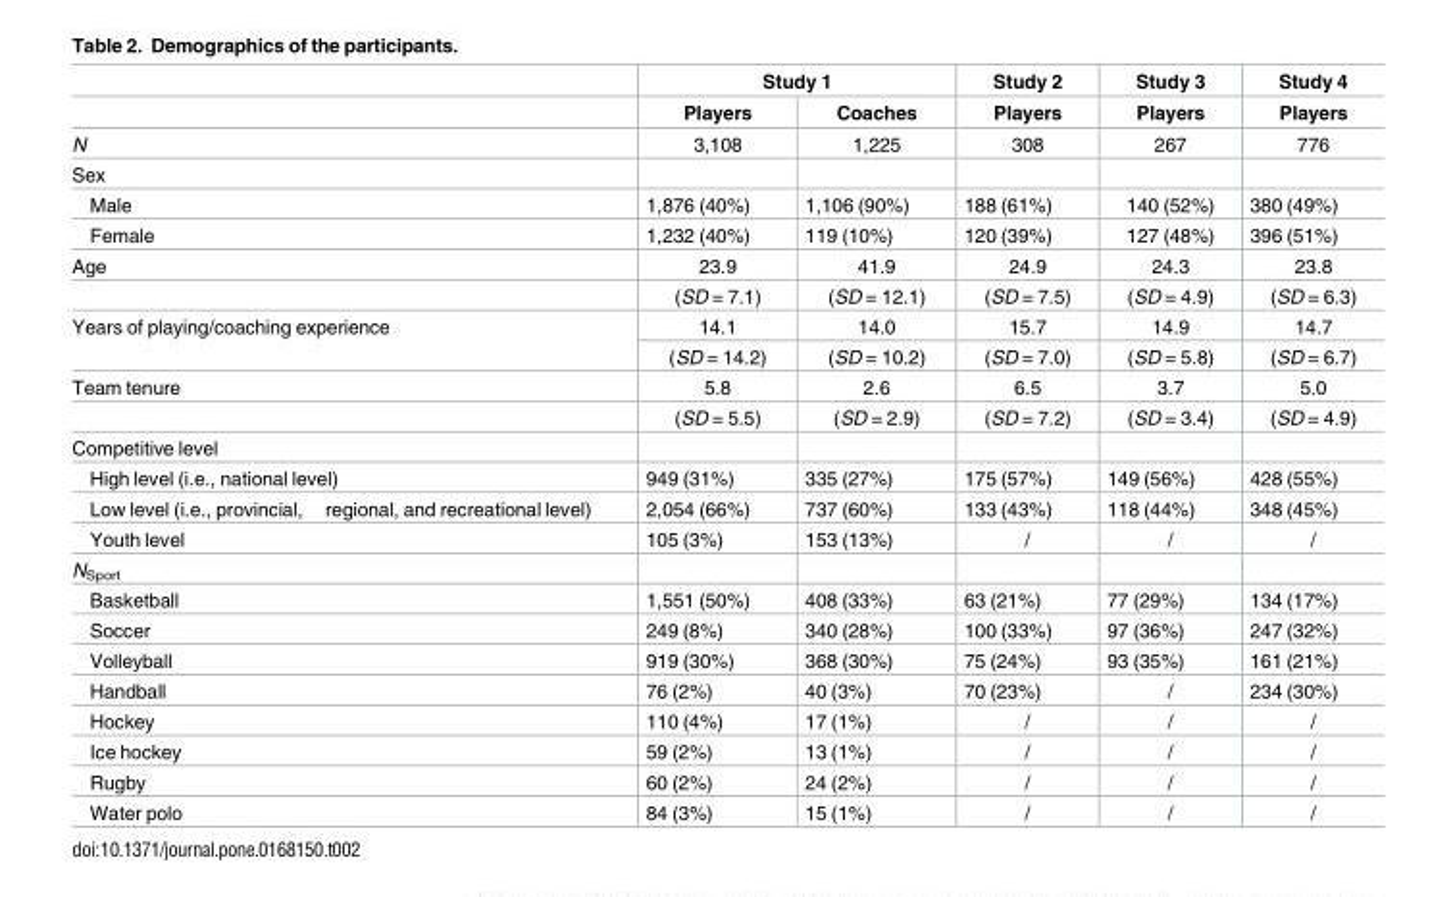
<table><thead><tr><td rowspan="2"></td><td colspan="2">Study 1</td><td rowspan="2">Study 2 Players</td><td rowspan="2">Study 3 Players</td><td rowspan="2">Study 4 Players</td></tr><tr><td>Players</td><td>Coaches</td></tr></thead><tbody><tr><td>N</td><td>3,108</td><td>1,225</td><td>308</td><td>267</td><td>776</td></tr><tr><td colspan="6">Sex</td></tr><tr><td>Male</td><td>1,876 (40%)</td><td>1,106 (90%)</td><td>188 (61%)</td><td>140 (52%)</td><td>380 (49%)</td></tr><tr><td>Female</td><td>1,232 (40%)</td><td>119 (10%)</td><td>120 (39%)</td><td>127 (48%)</td><td>396 (51%)</td></tr><tr><td rowspan="2">Age</td><td>23.9</td><td>41.9</td><td>24.9</td><td>24.3</td><td>23.8</td></tr><tr><td>(SD = 7.1)</td><td>(SD = 12.1)</td><td>(SD = 7.5)</td><td>(SD = 4.9)</td><td>(SD = 6.3)</td></tr><tr><td rowspan="2">Years of playing/coaching experience</td><td>14.1</td><td>14.0</td><td>15.7</td><td>14.9</td><td>14.7</td></tr><tr><td>(SD = 14.2)</td><td>(SD = 10.2)</td><td>(SD = 7.0)</td><td>(SD = 5.8)</td><td>(SD = 6.7)</td></tr><tr><td rowspan="2">Team tenure</td><td>5.8</td><td>2.6</td><td>6.5</td><td>3.7</td><td>5.0</td></tr><tr><td>(SD = 5.5)</td><td>(SD = 2.9)</td><td>(SD = 7.2)</td><td>(SD = 3.4)</td><td>(SD = 4.9)</td></tr><tr><td colspan="6">Competitive level</td></tr><tr><td>High level (i.e., national level)</td><td>949 (31%)</td><td>335 (27%)</td><td>175 (57%)</td><td>149 (56%)</td><td>428 (55%)</td></tr><tr><td>Low level (i.e., provincial, regional, and recreational level)</td><td>2,054 (66%)</td><td>737 (60%)</td><td>133 (43%)</td><td>118 (44%)</td><td>348 (45%)</td></tr><tr><td>Youth level</td><td>105 (3%)</td><td>153 (13%)</td><td>/</td><td>/</td><td>/</td></tr><tr><td colspan="6">N<sub>Sport</sub></td></tr><tr><td>Basketball</td><td>1,551 (50%)</td><td>408 (33%)</td><td>63 (21%)</td><td>77 (29%)</td><td>134 (17%)</td></tr><tr><td>Soccer</td><td>249 (8%)</td><td>340 (28%)</td><td>100 (33%)</td><td>97 (36%)</td><td>247 (32%)</td></tr><tr><td>Volleyball</td><td>919 (30%)</td><td>368 (30%)</td><td>75 (24%)</td><td>93 (35%)</td><td>161 (21%)</td></tr><tr><td>Handball</td><td>76 (2%)</td><td>40 (3%)</td><td>70 (23%)</td><td>/</td><td>234 (30%)</td></tr><tr><td>Hockey</td><td>110 (4%)</td><td>17 (1%)</td><td>/</td><td>/</td><td>/</td></tr><tr><td>Ice hockey</td><td>59 (2%)</td><td>13 (1%)</td><td>/</td><td>/</td><td>/</td></tr><tr><td>Rugby</td><td>60 (2%)</td><td>24 (2%)</td><td>/</td><td>/</td><td>/</td></tr><tr><td>Water polo</td><td>84 (3%)</td><td>15 (1%)</td><td>/</td><td>/</td><td>/</td></tr></tbody></table>